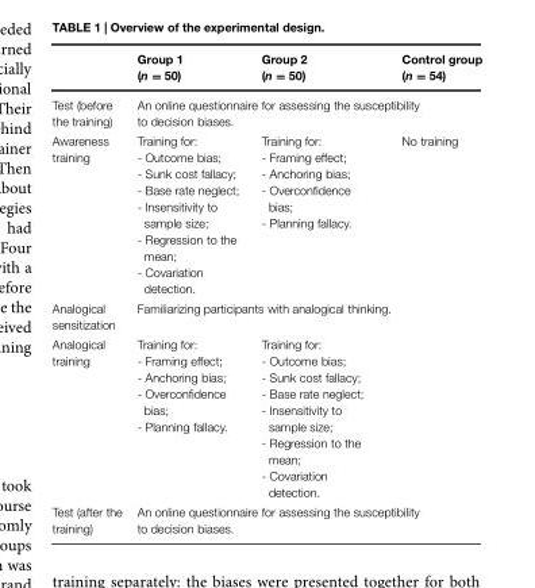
<table><thead><tr><td></td><td>Group 1 (n = 50)</td><td>Group 2 (n = 50)</td><td>Control group (n = 54)</td></tr></thead><tbody><tr><td>Test (before the training)</td><td colspan="3">An online questionnaire for assessing the susceptibility to decision biases.</td></tr><tr><td>Awareness training</td><td>Training for: - Outcome bias; - Sunk cost fallacy; - Base rate neglect; - Insensitivity to sample size; - Regression to the mean; - Covariation detection.</td><td>Training for: - Framing effect; - Anchoring bias; - Overconfidence bias; - Planning fallacy.</td><td>No training</td></tr><tr><td>Analogical sensitization</td><td colspan="2">Familiarizing participants with analogical thinking.</td><td></td></tr><tr><td>Analogical training</td><td>Training for: - Framing effect; - Anchoring bias; - Overconfidence bias; - Planning fallacy.</td><td>Training for: - Outcome bias; - Sunk cost fallacy; - Base rate neglect; - Insensitivity to sample size; - Regression to the mean; - Covariation detection.</td><td></td></tr><tr><td>Test (after the training)</td><td colspan="3">An online questionnaire for assessing the susceptibility to decision biases.</td></tr></tbody></table>